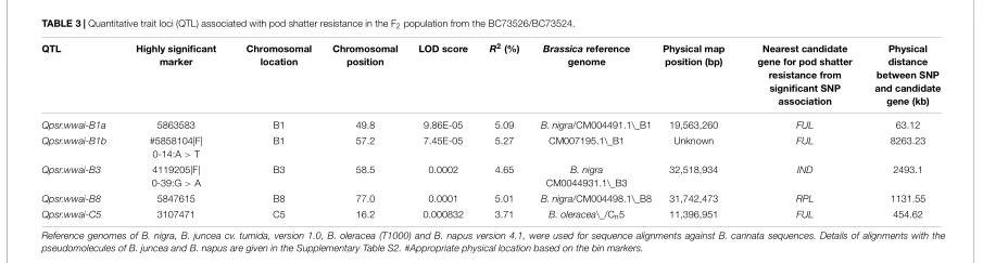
<table><thead><tr><td>QTL</td><td>Highly significant marker</td><td>Chromosomal location</td><td>Chromosomal position</td><td>LOD score</td><td>R<sup>2</sup> (%)</td><td>Brassica reference genome</td><td>Physical map position (bp)</td><td>Nearest candidate gene for pod shatter resistance from significant SNP association</td><td>Physical distance between SNP and candidate gene (kb)</td></tr></thead><tbody><tr><td>Qpsr.wwai-B1a</td><td>5863583</td><td>B1</td><td>49.8</td><td>9.86E-05</td><td>5.09</td><td>B. nigra/CM004491.1“_B1</td><td>19,563,260</td><td>FUL</td><td>63.12</td></tr><tr><td>Qpsr.wwai-B1b</td><td>#5858104|F| 0-14:A &gt; T</td><td>B1</td><td>57.2</td><td>7.45E-05</td><td>5.27</td><td>CM007195.1“_B1</td><td>Unknown</td><td>FUL</td><td>8263.23</td></tr><tr><td>Qpsr.wwai-B3</td><td>4119205|F| 0-39:G &gt; A</td><td>B3</td><td>58.5</td><td>0.0002</td><td>4.65</td><td>B. nigra CM0044931.1“_B3</td><td>32,518,934</td><td>IND</td><td>2493.1</td></tr><tr><td>Qpsr.wwai-B8</td><td>5847615</td><td>B8</td><td>77.0</td><td>0.0001</td><td>5.01</td><td>B. nigra/CM004498.1“_B8</td><td>31,742,473</td><td>RPL</td><td>1131.55</td></tr><tr><td>Qpsr.wwai-C5</td><td>3107471</td><td>C5</td><td>16.2</td><td>0.000832</td><td>3.71</td><td>B. oleracea“_/C<sub>n</sub>5</td><td>11,396,951</td><td>FUL</td><td>454.62</td></tr></tbody></table>